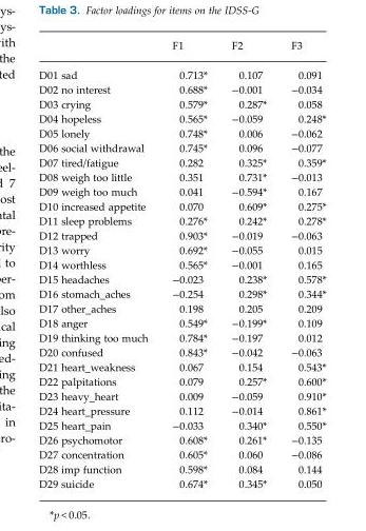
<table><thead><tr><td></td><td>F1</td><td>F2</td><td>F3</td></tr></thead><tbody><tr><td>D01 sad</td><td>0.713*</td><td>0.107</td><td>0.091</td></tr><tr><td>D02 no interest</td><td>0.688*</td><td>−0.001</td><td>−0.034</td></tr><tr><td>D03 crying</td><td>0.579*</td><td>0.287*</td><td>0.058</td></tr><tr><td>D04 hopeless</td><td>0.565*</td><td>−0.059</td><td>0.248*</td></tr><tr><td>D05 lonely</td><td>0.748*</td><td>0.006</td><td>−0.062</td></tr><tr><td>D06 social withdrawal</td><td>0.745*</td><td>0.096</td><td>−0.077</td></tr><tr><td>D07 tired/fatigue</td><td>0.282</td><td>0.325*</td><td>0.359*</td></tr><tr><td>D08 weigh too little</td><td>0.351</td><td>0.731*</td><td>−0.013</td></tr><tr><td>D09 weigh too much</td><td>0.041</td><td>−0.594*</td><td>0.167</td></tr><tr><td>D10 increased appetite</td><td>0.070</td><td>0.609*</td><td>0.275*</td></tr><tr><td>D11 sleep problems</td><td>0.276*</td><td>0.242*</td><td>0.278*</td></tr><tr><td>D12 trapped</td><td>0.903*</td><td>−0.019</td><td>−0.063</td></tr><tr><td>D13 worry</td><td>0.692*</td><td>−0.055</td><td>0.015</td></tr><tr><td>D14 worthless</td><td>0.565*</td><td>−0.001</td><td>0.165</td></tr><tr><td>D15 headaches</td><td>−0.023</td><td>0.238*</td><td>0.578*</td></tr><tr><td>D16 stomach_aches</td><td>−0.254</td><td>0.298*</td><td>0.344*</td></tr><tr><td>D17 other_aches</td><td>0.198</td><td>0.205</td><td>0.209</td></tr><tr><td>D18 anger</td><td>0.549*</td><td>−0.199*</td><td>0.109</td></tr><tr><td>D19 thinking too much</td><td>0.784*</td><td>−0.197</td><td>0.012</td></tr><tr><td>D20 confused</td><td>0.843*</td><td>−0.042</td><td>−0.063</td></tr><tr><td>D21 heart_weakness</td><td>0.067</td><td>0.154</td><td>0.543*</td></tr><tr><td>D22 palpitations</td><td>0.079</td><td>0.257*</td><td>0.600*</td></tr><tr><td>D23 heavy_heart</td><td>0.009</td><td>−0.059</td><td>0.910*</td></tr><tr><td>D24 heart_pressure</td><td>0.112</td><td>−0.014</td><td>0.861*</td></tr><tr><td>D25 heart_pain</td><td>−0.033</td><td>0.340*</td><td>0.550*</td></tr><tr><td>D26 psychomotor</td><td>0.608*</td><td>0.261*</td><td>−0.135</td></tr><tr><td>D27 concentration</td><td>0.605*</td><td>0.060</td><td>−0.086</td></tr><tr><td>D28 imp function</td><td>0.598*</td><td>0.084</td><td>0.144</td></tr><tr><td>D29 suicide</td><td>0.674*</td><td>0.345*</td><td>0.050</td></tr></tbody></table>